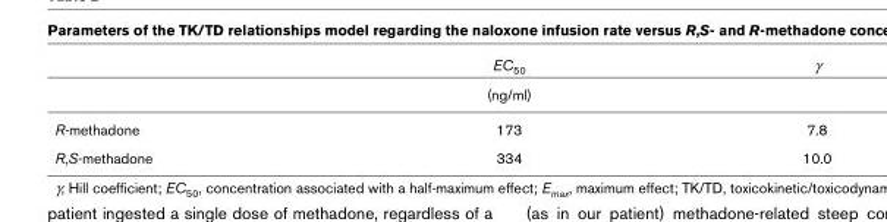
<table><thead><tr><td></td><td>EC<sub>50</sub></td><td>γ</td></tr></thead><tbody><tr><td></td><td>(ng/ml)</td><td></td></tr><tr><td>R-methadone</td><td>173</td><td>7.8</td></tr><tr><td>R,S-methadone</td><td>334</td><td>10.0</td></tr></tbody></table>